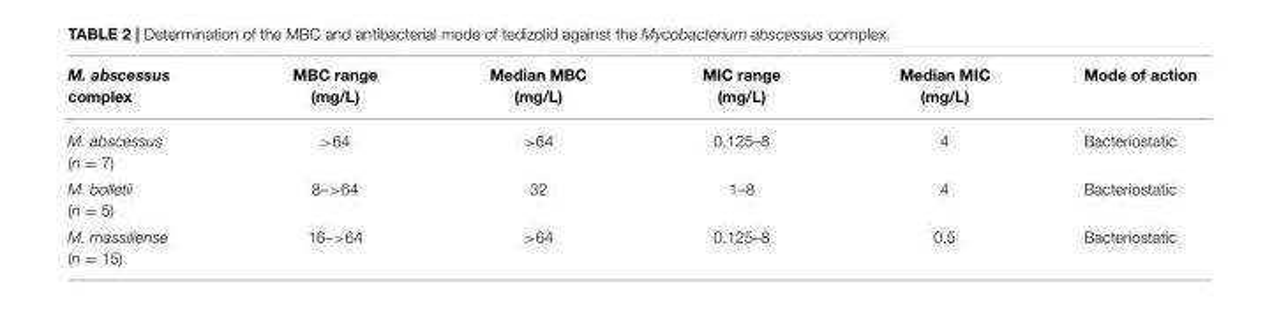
<table><thead><tr><td>M. abscessus complex</td><td>MBC range (mg/L)</td><td>Median MBC (mg/L)</td><td>MIC range (mg/L)</td><td>Median MIC (mg/L)</td><td>Mode of action</td></tr></thead><tbody><tr><td>M. abscessus (n = 7)</td><td>&gt;64</td><td>&gt;64</td><td>0.125–8</td><td>4</td><td>Bacteriostatic</td></tr><tr><td>M. bolletii (n = 5)</td><td>8–&gt;64</td><td>32</td><td>1–8</td><td>4</td><td>Bacteriostatic</td></tr><tr><td>M. massiliense (n = 15)</td><td>16–&gt;64</td><td>&gt;64</td><td>0.125–8</td><td>0.5</td><td>Bacteriostatic</td></tr></tbody></table>